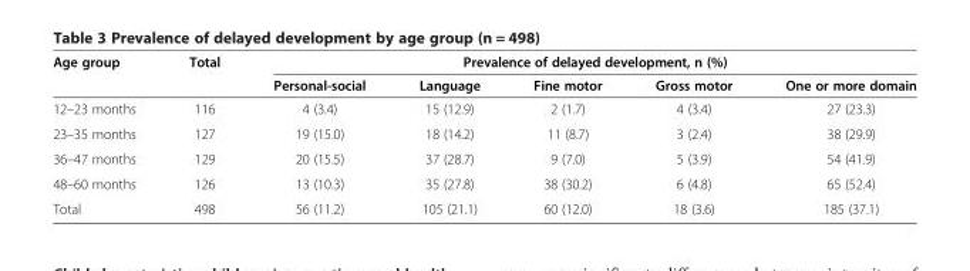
<table><thead><tr><td rowspan="2">Age group</td><td rowspan="2">Total</td><td colspan="5">Prevalence of delayed development, n (%)</td></tr><tr><td>Personal-social</td><td>Language</td><td>Fine motor</td><td>Gross motor</td><td>One or more domain</td></tr></thead><tbody><tr><td>12–23 months</td><td>116</td><td>4 (3.4)</td><td>15 (12.9)</td><td>2 (1.7)</td><td>4 (3.4)</td><td>27 (23.3)</td></tr><tr><td>23–35 months</td><td>127</td><td>19 (15.0)</td><td>18 (14.2)</td><td>11 (8.7)</td><td>3 (2.4)</td><td>38 (29.9)</td></tr><tr><td>36–47 months</td><td>129</td><td>20 (15.5)</td><td>37 (28.7)</td><td>9 (7.0)</td><td>5 (3.9)</td><td>54 (41.9)</td></tr><tr><td>48–60 months</td><td>126</td><td>13 (10.3)</td><td>35 (27.8)</td><td>38 (30.2)</td><td>6 (4.8)</td><td>65 (52.4)</td></tr><tr><td>Total</td><td>498</td><td>56 (11.2)</td><td>105 (21.1)</td><td>60 (12.0)</td><td>18 (3.6)</td><td>185 (37.1)</td></tr></tbody></table>